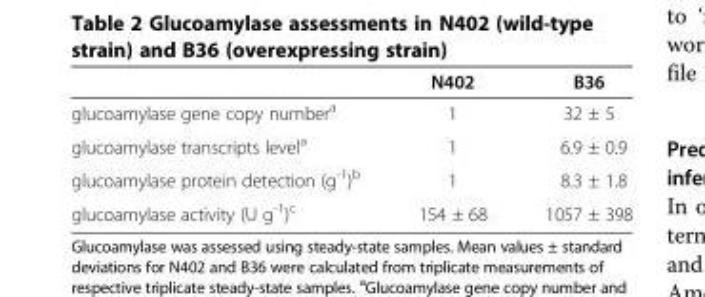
<table><thead><tr><td></td><td>N402</td><td>B36</td></tr></thead><tbody><tr><td>glucoamylase gene copy number<sup>a</sup></td><td>1</td><td>32 ± 5</td></tr><tr><td>glucoamylase transcripts level<sup>a</sup></td><td>1</td><td>6.9 ± 0.9</td></tr><tr><td>glucoamylase protein detection (g<sup>-1</sup>)<sup>b</sup></td><td>1</td><td>8.3 ± 1.8</td></tr><tr><td>glucoamylase activity (U g<sup>-1</sup>)<sup>c</sup></td><td>154 ± 68</td><td>1057 ± 398</td></tr></tbody></table>